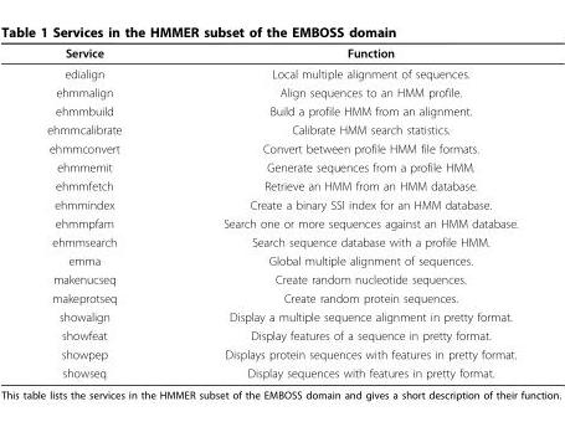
<table><thead><tr><td>Service</td><td>Function</td></tr></thead><tbody><tr><td>edialign</td><td>Local multiple alignment of sequences.</td></tr><tr><td>ehmmalign</td><td>Align sequences to an HMM profile.</td></tr><tr><td>ehmmbuild</td><td>Build a profile HMM from an alignment.</td></tr><tr><td>ehmmcalibrate</td><td>Calibrate HMM search statistics.</td></tr><tr><td>ehmmconvert</td><td>Convert between profile HMM file formats.</td></tr><tr><td>ehmmemit</td><td>Generate sequences from a profile HMM.</td></tr><tr><td>ehmmfetch</td><td>Retrieve an HMM from an HMM database.</td></tr><tr><td>ehmmindex</td><td>Create a binary SSI index for an HMM database.</td></tr><tr><td>ehmmpfam</td><td>Search one or more sequences against an HMM database.</td></tr><tr><td>ehmmsearch</td><td>Search sequence database with a profile HMM.</td></tr><tr><td>emma</td><td>Global multiple alignment of sequences.</td></tr><tr><td>makenucseq</td><td>Create random nucleotide sequences.</td></tr><tr><td>makeprotseq</td><td>Create random protein sequences.</td></tr><tr><td>showalign</td><td>Display a multiple sequence alignment in pretty format.</td></tr><tr><td>showfeat</td><td>Display features of a sequence in pretty format.</td></tr><tr><td>showpep</td><td>Displays protein sequences with features in pretty format.</td></tr><tr><td>showseq</td><td>Display sequences with features in pretty format.</td></tr></tbody></table>